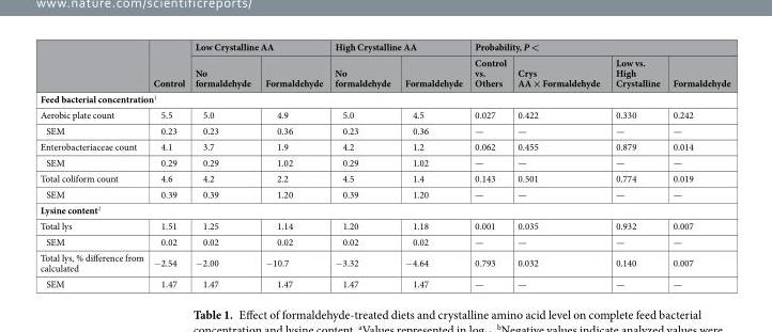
<table><thead><tr><td rowspan="2"></td><td rowspan="2">Control</td><td colspan="2">Low Crystalline AA</td><td colspan="2">High Crystalline AA</td><td colspan="4">Probability, P &lt;</td></tr><tr><td>No formaldehyde</td><td>Formaldehyde</td><td>No formaldehyde</td><td>Formaldehyde</td><td>Control vs. Others</td><td>Crys AA × Formaldehyde</td><td>Low vs. High Crystalline</td><td>Formaldehyde</td></tr></thead><tbody><tr><td colspan="10">Feed bacterial concentration<sup>1</sup></td></tr><tr><td>Aerobic plate count</td><td>5.5</td><td>5.0</td><td>4.9</td><td>5.0</td><td>4.5</td><td>0.027</td><td>0.422</td><td>0.330</td><td>0.242</td></tr><tr><td>SEM</td><td>0.23</td><td>0.23</td><td>0.36</td><td>0.23</td><td>0.36</td><td>—</td><td>—</td><td>—</td><td>—</td></tr><tr><td>Enterobacteriaceae count</td><td>4.1</td><td>3.7</td><td>1.9</td><td>4.2</td><td>1.2</td><td>0.062</td><td>0.455</td><td>0.879</td><td>0.014</td></tr><tr><td>SEM</td><td>0.29</td><td>0.29</td><td>1.02</td><td>0.29</td><td>1.02</td><td>—</td><td>—</td><td>—</td><td>—</td></tr><tr><td>Total coliform count</td><td>4.6</td><td>4.2</td><td>2.2</td><td>4.5</td><td>1.4</td><td>0.143</td><td>0.501</td><td>0.774</td><td>0.019</td></tr><tr><td>SEM</td><td>0.39</td><td>0.39</td><td>1.20</td><td>0.39</td><td>1.20</td><td>—</td><td>—</td><td>—</td><td>—</td></tr><tr><td colspan="10">Lysine content<sup>2</sup></td></tr><tr><td>Total lys</td><td>1.51</td><td>1.25</td><td>1.14</td><td>1.20</td><td>1.18</td><td>0.001</td><td>0.035</td><td>0.932</td><td>0.007</td></tr><tr><td>SEM</td><td>0.02</td><td>0.02</td><td>0.02</td><td>0.02</td><td>0.02</td><td>—</td><td>—</td><td>—</td><td>—</td></tr><tr><td>Total lys, % difference from calculated</td><td>−2.54</td><td>−2.00</td><td>−10.7</td><td>−3.32</td><td>−4.64</td><td>0.793</td><td>0.032</td><td>0.140</td><td>0.007</td></tr><tr><td>SEM</td><td>1.47</td><td>1.47</td><td>1.47</td><td>1.47</td><td>1.47</td><td>—</td><td>—</td><td>—</td><td>—</td></tr></tbody></table>